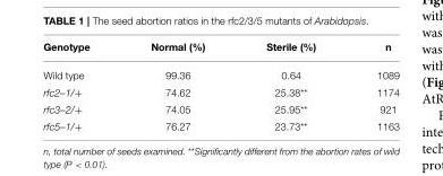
<table><thead><tr><td>Genotype</td><td>Normal (%)</td><td>Sterile (%)</td><td>n</td></tr></thead><tbody><tr><td>Wild type</td><td>99.36</td><td>0.64</td><td>1089</td></tr><tr><td>rfc2–1/+</td><td>74.62</td><td>25.38**</td><td>1174</td></tr><tr><td>rfc3–2/+</td><td>74.05</td><td>25.95**</td><td>921</td></tr><tr><td>rfc5–1/+</td><td>76.27</td><td>23.73**</td><td>1163</td></tr></tbody></table>